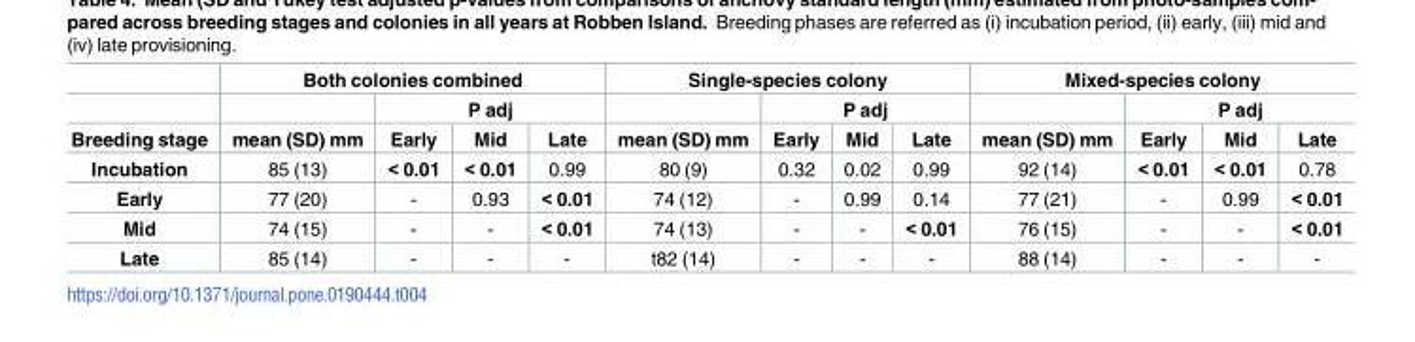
<table><thead><tr><td rowspan="3">Breeding stage</td><td colspan="4">Both colonies combined</td><td colspan="4">Single-species colony</td><td colspan="4">Mixed-species colony</td></tr><tr><td rowspan="2">mean (SD) mm</td><td colspan="3">P adj</td><td rowspan="2">mean (SD) mm</td><td colspan="3">P adj</td><td rowspan="2">mean (SD) mm</td><td colspan="3">P adj</td></tr><tr><td>Early</td><td>Mid</td><td>Late</td><td>Early</td><td>Mid</td><td>Late</td><td>Early</td><td>Mid</td><td>Late</td></tr></thead><tbody><tr><td>Incubation</td><td>85 (13)</td><td>&lt; 0.01</td><td>&lt; 0.01</td><td>0.99</td><td>80 (9)</td><td>0.32</td><td>0.02</td><td>0.99</td><td>92 (14)</td><td>&lt; 0.01</td><td>&lt; 0.01</td><td>0.78</td></tr><tr><td>Early</td><td>77 (20)</td><td>-</td><td>0.93</td><td>&lt; 0.01</td><td>74 (12)</td><td>-</td><td>0.99</td><td>0.14</td><td>77 (21)</td><td>-</td><td>0.99</td><td>&lt; 0.01</td></tr><tr><td>Mid</td><td>74 (15)</td><td>-</td><td>-</td><td>&lt; 0.01</td><td>74 (13)</td><td>-</td><td>-</td><td>&lt; 0.01</td><td>76 (15)</td><td>-</td><td>-</td><td>&lt; 0.01</td></tr><tr><td>Late</td><td>85 (14)</td><td>-</td><td>-</td><td>-</td><td>t82 (14)</td><td>-</td><td>-</td><td>-</td><td>88 (14)</td><td>-</td><td>-</td><td>-</td></tr></tbody></table>